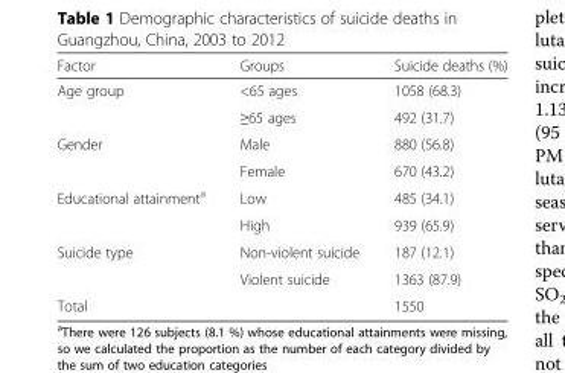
<table><thead><tr><td>Factor</td><td>Groups</td><td>Suicide deaths (%)</td></tr></thead><tbody><tr><td rowspan="2">Age group</td><td>&lt;65 ages</td><td>1058 (68.3)</td></tr><tr><td>≥65 ages</td><td>492 (31.7)</td></tr><tr><td rowspan="2">Gender</td><td>Male</td><td>880 (56.8)</td></tr><tr><td>Female</td><td>670 (43.2)</td></tr><tr><td rowspan="2">Educational attainment<sup>a</sup></td><td>Low</td><td>485 (34.1)</td></tr><tr><td>High</td><td>939 (65.9)</td></tr><tr><td rowspan="2">Suicide type</td><td>Non-violent suicide</td><td>187 (12.1)</td></tr><tr><td>Violent suicide</td><td>1363 (87.9)</td></tr><tr><td>Total</td><td></td><td>1550</td></tr></tbody></table>